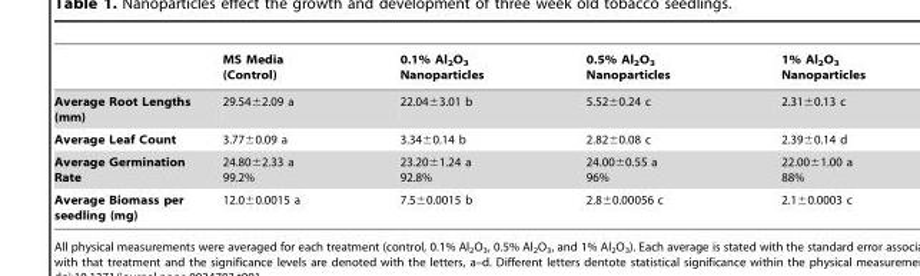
<table><thead><tr><td></td><td>MS Media (Control)</td><td>0.1% Al<sub>2</sub>O<sub>3</sub> Nanoparticles</td><td>0.5% Al<sub>2</sub>O<sub>3</sub> Nanoparticles</td><td>1% Al<sub>2</sub>O<sub>3</sub> Nanoparticles</td></tr></thead><tbody><tr><td>Average Root Lengths (mm)</td><td>29.54±2.09 a</td><td>22.04±3.01 b</td><td>5.52±0.24 c</td><td>2.31±0.13 c</td></tr><tr><td>Average Leaf Count</td><td>3.77±0.09 a</td><td>3.34±0.14 b</td><td>2.82±0.08 c</td><td>2.39±0.14 d</td></tr><tr><td>Average Germination Rate</td><td>24.80±2.33 a 99.2%</td><td>23.20±1.24 a 92.8%</td><td>24.00±0.55 a 96%</td><td>22.00±1.00 a 88%</td></tr><tr><td>Average Biomass per seedling (mg)</td><td>12.0±0.0015 a</td><td>7.5±0.0015 b</td><td>2.8±0.00056 c</td><td>2.1±0.0003 c</td></tr></tbody></table>